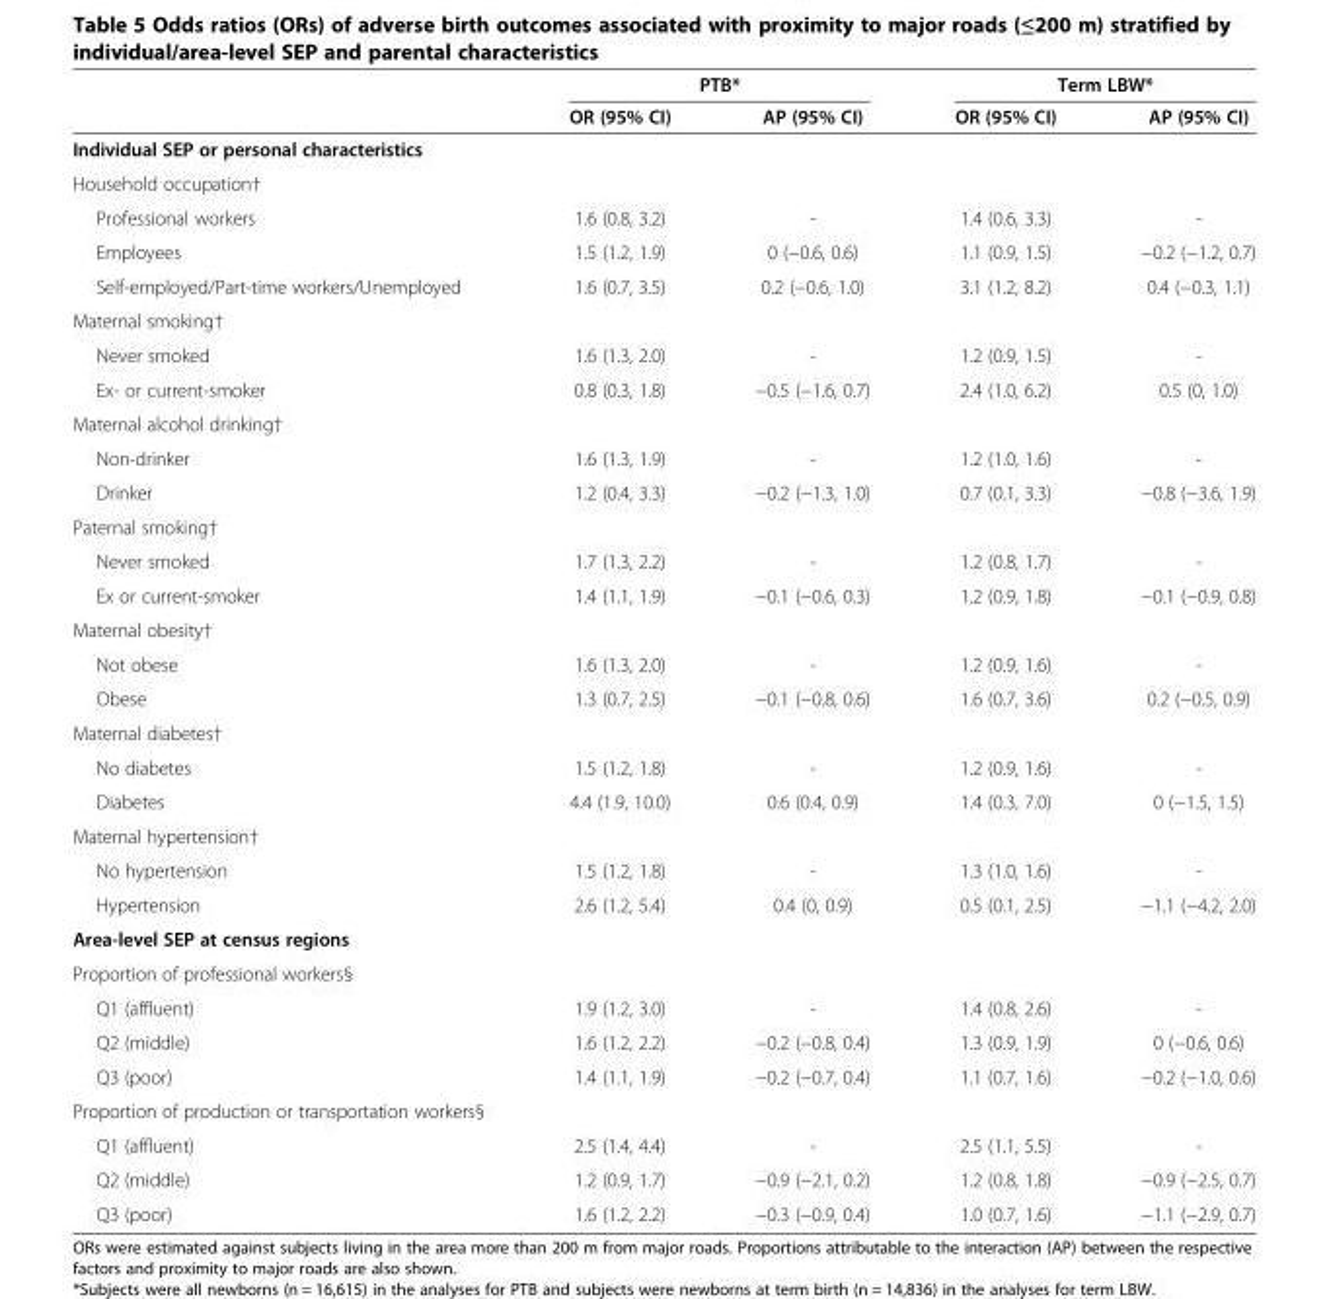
<table><thead><tr><td rowspan="2"></td><td colspan="2">PTB*</td><td colspan="2">Term LBW*</td></tr><tr><td>OR (95% CI)</td><td>AP (95% CI)</td><td>OR (95% CI)</td><td>AP (95% CI)</td></tr></thead><tbody><tr><td colspan="5">Individual SEP or personal characteristics</td></tr><tr><td colspan="5">Household occupation†</td></tr><tr><td>Professional workers</td><td>1.6 (0.8, 3.2)</td><td>-</td><td>1.4 (0.6, 3.3)</td><td>-</td></tr><tr><td>Employees</td><td>1.5 (1.2, 1.9)</td><td>0 (−0.6, 0.6)</td><td>1.1 (0.9, 1.5)</td><td>−0.2 (−1.2, 0.7)</td></tr><tr><td>Self-employed/Part-time workers/Unemployed</td><td>1.6 (0.7, 3.5)</td><td>0.2 (−0.6, 1.0)</td><td>3.1 (1.2, 8.2)</td><td>0.4 (−0.3, 1.1)</td></tr><tr><td colspan="5">Maternal smoking†</td></tr><tr><td>Never smoked</td><td>1.6 (1.3, 2.0)</td><td>-</td><td>1.2 (0.9, 1.5)</td><td>-</td></tr><tr><td>Ex- or current-smoker</td><td>0.8 (0.3, 1.8)</td><td>−0.5 (−1.6, 0.7)</td><td>2.4 (1.0, 6.2)</td><td>0.5 (0, 1.0)</td></tr><tr><td colspan="5">Maternal alcohol drinking†</td></tr><tr><td>Non-drinker</td><td>1.6 (1.3, 1.9)</td><td>-</td><td>1.2 (1.0, 1.6)</td><td>-</td></tr><tr><td>Drinker</td><td>1.2 (0.4, 3.3)</td><td>−0.2 (−1.3, 1.0)</td><td>0.7 (0.1, 3.3)</td><td>−0.8 (−3.6, 1.9)</td></tr><tr><td colspan="5">Paternal smoking†</td></tr><tr><td>Never smoked</td><td>1.7 (1.3, 2.2)</td><td>-</td><td>1.2 (0.8, 1.7)</td><td>-</td></tr><tr><td>Ex or current-smoker</td><td>1.4 (1.1, 1.9)</td><td>−0.1 (−0.6, 0.3)</td><td>1.2 (0.9, 1.8)</td><td>−0.1 (−0.9, 0.8)</td></tr><tr><td colspan="5">Maternal obesity†</td></tr><tr><td>Not obese</td><td>1.6 (1.3, 2.0)</td><td>-</td><td>1.2 (0.9, 1.6)</td><td>-</td></tr><tr><td>Obese</td><td>1.3 (0.7, 2.5)</td><td>−0.1 (−0.8, 0.6)</td><td>1.6 (0.7, 3.6)</td><td>0.2 (−0.5, 0.9)</td></tr><tr><td colspan="5">Maternal diabetes†</td></tr><tr><td>No diabetes</td><td>1.5 (1.2, 1.8)</td><td>-</td><td>1.2 (0.9, 1.6)</td><td>-</td></tr><tr><td>Diabetes</td><td>4.4 (1.9, 10.0)</td><td>0.6 (0.4, 0.9)</td><td>1.4 (0.3, 7.0)</td><td>0 (−1.5, 1.5)</td></tr><tr><td colspan="5">Maternal hypertension†</td></tr><tr><td>No hypertension</td><td>1.5 (1.2, 1.8)</td><td>-</td><td>1.3 (1.0, 1.6)</td><td>-</td></tr><tr><td>Hypertension</td><td>2.6 (1.2, 5.4)</td><td>0.4 (0, 0.9)</td><td>0.5 (0.1, 2.5)</td><td>−1.1 (−4.2, 2.0)</td></tr><tr><td colspan="5">Area-level SEP at census regions</td></tr><tr><td colspan="5">Proportion of professional workers§</td></tr><tr><td>Q1 (affluent)</td><td>1.9 (1.2, 3.0)</td><td>-</td><td>1.4 (0.8, 2.6)</td><td>-</td></tr><tr><td>Q2 (middle)</td><td>1.6 (1.2, 2.2)</td><td>−0.2 (−0.8, 0.4)</td><td>1.3 (0.9, 1.9)</td><td>0 (−0.6, 0.6)</td></tr><tr><td>Q3 (poor)</td><td>1.4 (1.1, 1.9)</td><td>−0.2 (−0.7, 0.4)</td><td>1.1 (0.7, 1.6)</td><td>−0.2 (−1.0, 0.6)</td></tr><tr><td colspan="5">Proportion of production or transportation workers§</td></tr><tr><td>Q1 (affluent)</td><td>2.5 (1.4, 4.4)</td><td>-</td><td>2.5 (1.1, 5.5)</td><td>-</td></tr><tr><td>Q2 (middle)</td><td>1.2 (0.9, 1.7)</td><td>−0.9 (−2.1, 0.2)</td><td>1.2 (0.8, 1.8)</td><td>−0.9 (−2.5, 0.7)</td></tr><tr><td>Q3 (poor)</td><td>1.6 (1.2, 2.2)</td><td>−0.3 (−0.9, 0.4)</td><td>1.0 (0.7, 1.6)</td><td>−1.1 (−2.9, 0.7)</td></tr></tbody></table>